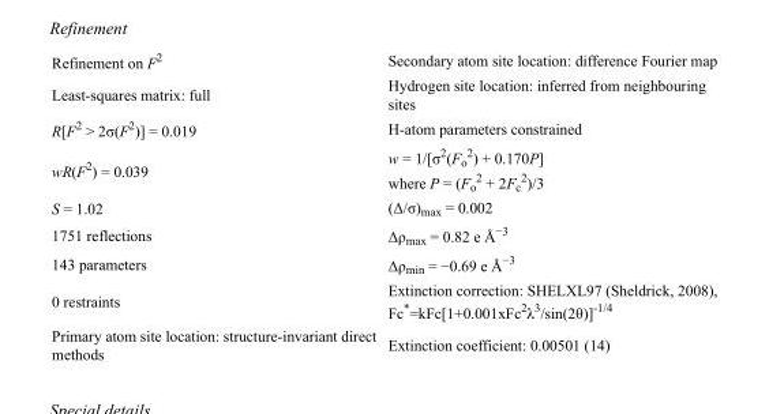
<table><tbody><tr><td>Refinement on F<sup>2</sup></td><td>Secondary atom site location: difference Fourier map</td></tr><tr><td>Least-squares matrix: full</td><td>Hydrogen site location: inferred from neighbouring sites</td></tr><tr><td>R[F<sup>2</sup> &gt; 2σ(F<sup>2</sup>)] = 0.019</td><td>H-atom parameters constrained</td></tr><tr><td>wR(F<sup>2</sup>) = 0.039</td><td>w = 1/[σ<sup>2</sup>(F<sub>o</sub> <sup>2</sup>) + 0.170P] where P = (F<sub>o</sub> <sup>2</sup> + 2F<sub>c</sub> <sup>2</sup>)/3</td></tr><tr><td>S = 1.02</td><td>(Δ/σ)<sub>max</sub> = 0.002</td></tr><tr><td>1751 reflections</td><td>Δρ<sub>max</sub> = 0.82 e Å<sup>−3</sup></td></tr><tr><td>143 parameters</td><td>Δρ<sub>min</sub> = −0.69 e Å<sup>−3</sup></td></tr><tr><td>0 restraints</td><td>Extinction correction: SHELXL97 (Sheldrick, 2008), Fc*=kFc[1+0.001xFc<sup>2</sup>λ<sup>3</sup>/sin(2θ)]<sup>-1/4</sup></td></tr><tr><td>Primary atom site location: structure-invariant direct methods</td><td>Extinction coefficient: 0.00501 (14)</td></tr></tbody></table>